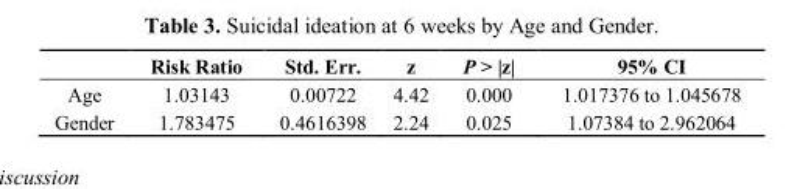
<table><thead><tr><td></td><td>Risk Ratio</td><td>Std. Err.</td><td>z</td><td>P &gt; |z|</td><td>95% CI</td></tr></thead><tbody><tr><td>Age</td><td>1.03143</td><td>0.00722</td><td>4.42</td><td>0.000</td><td>1.017376 to 1.045678</td></tr><tr><td>Gender</td><td>1.783475</td><td>0.4616398</td><td>2.24</td><td>0.025</td><td>1.07384 to 2.962064</td></tr></tbody></table>